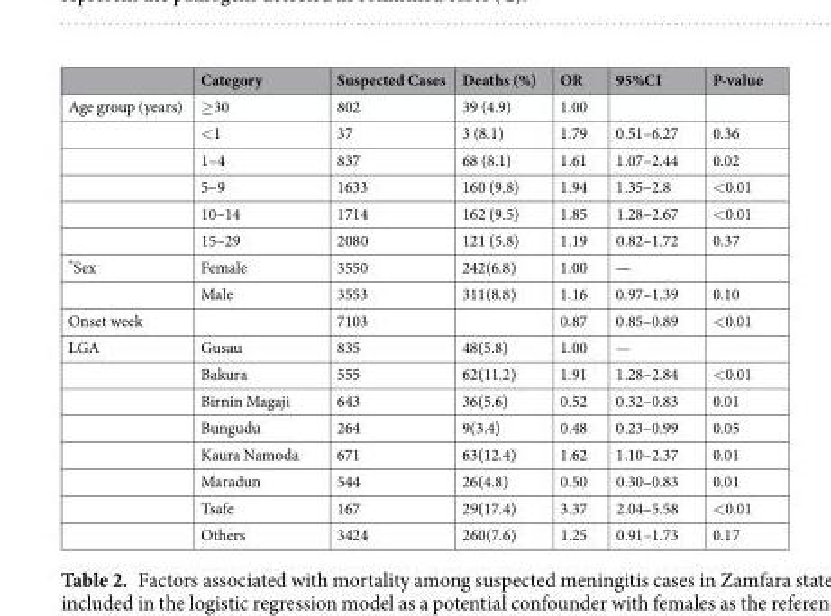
<table><thead><tr><td></td><td>Category</td><td>Suspected Cases</td><td>Deaths (%)</td><td>OR</td><td>95%CI</td><td>P-value</td></tr></thead><tbody><tr><td rowspan="6">Age group (years)</td><td>≥30</td><td>802</td><td>39 (4.9)</td><td>1.00</td><td></td><td></td></tr><tr><td>&lt;1</td><td>37</td><td>3 (8.1)</td><td>1.79</td><td>0.51–6.27</td><td>0.36</td></tr><tr><td>1–4</td><td>837</td><td>68 (8.1)</td><td>1.61</td><td>1.07–2.44</td><td>0.02</td></tr><tr><td>5–9</td><td>1633</td><td>160 (9.8)</td><td>1.94</td><td>1.35–2.8</td><td>&lt;0.01</td></tr><tr><td>10–14</td><td>1714</td><td>162 (9.5)</td><td>1.85</td><td>1.28–2.67</td><td>&lt;0.01</td></tr><tr><td>15–29</td><td>2080</td><td>121 (5.8)</td><td>1.19</td><td>0.82–1.72</td><td>0.37</td></tr><tr><td rowspan="2">*Sex</td><td>Female</td><td>3550</td><td>242(6.8)</td><td>1.00</td><td>—</td><td></td></tr><tr><td>Male</td><td>3553</td><td>311(8.8)</td><td>1.16</td><td>0.97–1.39</td><td>0.10</td></tr><tr><td>Onset week</td><td></td><td>7103</td><td></td><td>0.87</td><td>0.85–0.89</td><td>&lt;0.01</td></tr><tr><td rowspan="8">LGA</td><td>Gusau</td><td>835</td><td>48(5.8)</td><td>1.00</td><td>—</td><td></td></tr><tr><td>Bakura</td><td>555</td><td>62(11.2)</td><td>1.91</td><td>1.28–2.84</td><td>&lt;0.01</td></tr><tr><td>Birnin Magaji</td><td>643</td><td>36(5.6)</td><td>0.52</td><td>0.32–0.83</td><td>0.01</td></tr><tr><td>Bungudu</td><td>264</td><td>9(3.4)</td><td>0.48</td><td>0.23–0.99</td><td>0.05</td></tr><tr><td>Kaura Namoda</td><td>671</td><td>63(12.4)</td><td>1.62</td><td>1.10–2.37</td><td>0.01</td></tr><tr><td>Maradun</td><td>544</td><td>26(4.8)</td><td>0.50</td><td>0.30–0.83</td><td>0.01</td></tr><tr><td>Tsafe</td><td>167</td><td>29(17.4)</td><td>3.37</td><td>2.04–5.58</td><td>&lt;0.01</td></tr><tr><td>Others</td><td>3424</td><td>260(7.6)</td><td>1.25</td><td>0.91–1.73</td><td>0.17</td></tr></tbody></table>